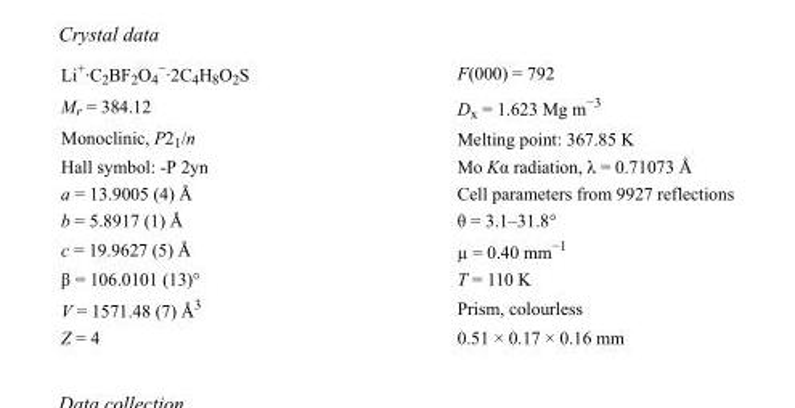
<table><tbody><tr><td>Li<sup>+</sup>·C<sub>2</sub>BF<sub>2</sub>O<sub>4</sub> <sup>−</sup>·2C<sub>4</sub>H<sub>8</sub>O<sub>2</sub>S</td><td>F(000) = 792</td></tr><tr><td>M<sub>r</sub> = 384.12</td><td>D<sub>x</sub> = 1.623 Mg m<sup>−3</sup></td></tr><tr><td>Monoclinic, P2<sub>1</sub>/n</td><td>Melting point: 367.85 K</td></tr><tr><td>Hall symbol: -P 2yn</td><td>Mo Kα radiation, λ = 0.71073 Å</td></tr><tr><td>a = 13.9005 (4) Å</td><td>Cell parameters from 9927 reflections</td></tr><tr><td>b = 5.8917 (1) Å</td><td>θ = 3.1–31.8°</td></tr><tr><td>c = 19.9627 (5) Å</td><td>µ = 0.40 mm<sup>−1</sup></td></tr><tr><td>β = 106.0101 (13)°</td><td>T = 110 K</td></tr><tr><td>V = 1571.48 (7) Å<sup>3</sup></td><td>Prism, colourless</td></tr><tr><td>Z = 4</td><td>0.51 × 0.17 × 0.16 mm</td></tr></tbody></table>